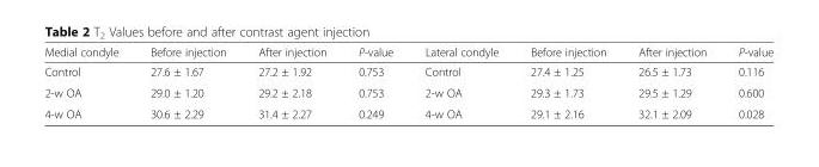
<table><thead><tr><td>Medial condyle</td><td>Before injection</td><td>After injection</td><td>P-value</td><td>Lateral condyle</td><td>Before injection</td><td>After injection</td><td>P-value</td></tr></thead><tbody><tr><td>Control</td><td>27.6 ± 1.67</td><td>27.2 ± 1.92</td><td>0.753</td><td>Control</td><td>27.4 ± 1.25</td><td>26.5 ± 1.73</td><td>0.116</td></tr><tr><td>2-w OA</td><td>29.0 ± 1.20</td><td>29.2 ± 2.18</td><td>0.753</td><td>2-w OA</td><td>29.3 ± 1.73</td><td>29.5 ± 1.29</td><td>0.600</td></tr><tr><td>4-w OA</td><td>30.6 ± 2.29</td><td>31.4 ± 2.27</td><td>0.249</td><td>4-w OA</td><td>29.1 ± 2.16</td><td>32.1 ± 2.09</td><td>0.028</td></tr></tbody></table>